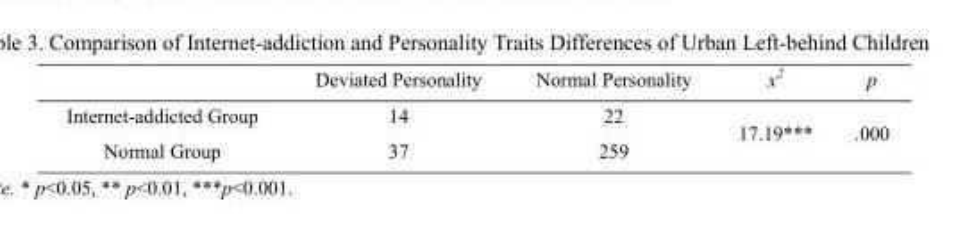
<table><thead><tr><td></td><td>Deviated Personality</td><td>Normal Personality</td><td>x<sup>2</sup></td><td>p</td></tr></thead><tbody><tr><td>Internet-addicted Group</td><td>14</td><td>22</td><td rowspan="2">17.19***</td><td rowspan="2">.000</td></tr><tr><td>Normal Group</td><td>37</td><td>259</td></tr></tbody></table>